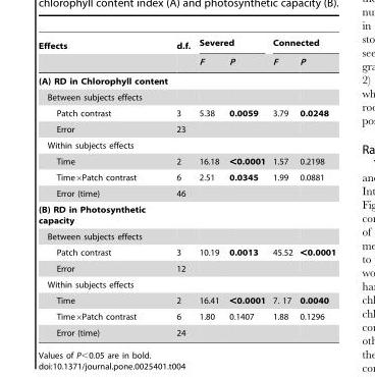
<table><thead><tr><td rowspan="2">Effects</td><td rowspan="2">d.f.</td><td colspan="2">Severed</td><td colspan="2">Connected</td></tr><tr><td>F</td><td>P</td><td>F</td><td>P</td></tr></thead><tbody><tr><td colspan="6">(A) RD in Chlorophyll content</td></tr><tr><td colspan="6">Between subjects effects</td></tr><tr><td>Patch contrast</td><td>3</td><td>5.38</td><td>0.0059</td><td>3.79</td><td>0.0248</td></tr><tr><td>Error</td><td>23</td><td></td><td></td><td></td><td></td></tr><tr><td colspan="6">Within subjects effects</td></tr><tr><td>Time</td><td>2</td><td>16.18</td><td>&lt;0.0001</td><td>1.57</td><td>0.2198</td></tr><tr><td>Time×Patch contrast</td><td>6</td><td>2.51</td><td>0.0345</td><td>1.99</td><td>0.0881</td></tr><tr><td>Error (time)</td><td>46</td><td></td><td></td><td></td><td></td></tr><tr><td colspan="6">(B) RD in Photosynthetic capacity</td></tr><tr><td colspan="6">Between subjects effects</td></tr><tr><td>Patch contrast</td><td>3</td><td>10.19</td><td>0.0013</td><td>45.52</td><td>&lt;0.0001</td></tr><tr><td>Error</td><td>12</td><td></td><td></td><td></td><td></td></tr><tr><td colspan="6">Within subjects effects</td></tr><tr><td>Time</td><td>2</td><td>16.41</td><td>&lt;0.0001</td><td>7. 17</td><td>0.0040</td></tr><tr><td>Time×Patch contrast</td><td>6</td><td>1.80</td><td>0.1407</td><td>1.88</td><td>0.1296</td></tr><tr><td>Error (time)</td><td>24</td><td></td><td></td><td></td><td></td></tr></tbody></table>